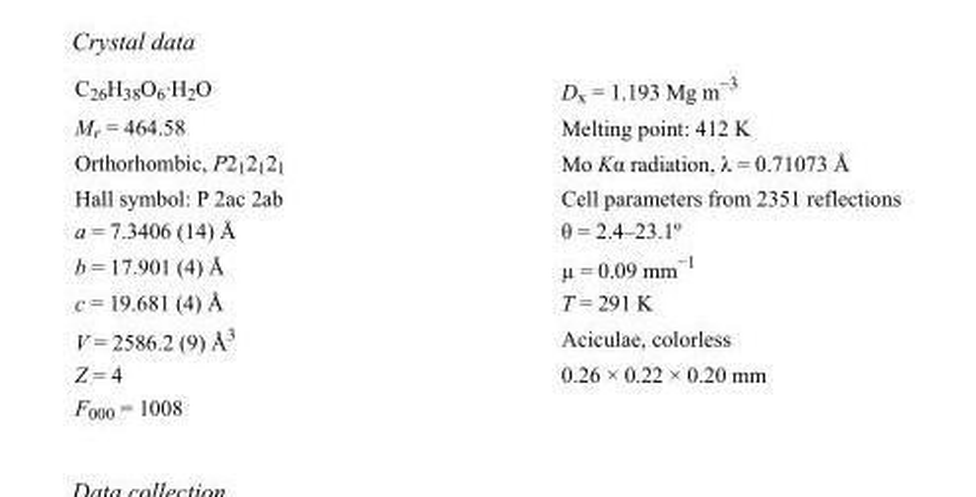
<table><tbody><tr><td>C<sub>26</sub>H<sub>38</sub>O<sub>6</sub>·H<sub>2</sub>O</td><td>D<sub>x</sub> = 1.193 Mg m<sup>−3</sup></td></tr><tr><td>M<sub>r</sub> = 464.58</td><td>Melting point: 412 K</td></tr><tr><td>Orthorhombic, P2<sub>1</sub>2<sub>1</sub>2<sub>1</sub></td><td>Mo Kα radiation, λ = 0.71073 Å</td></tr><tr><td>Hall symbol: P 2ac 2ab</td><td>Cell parameters from 2351 reflections</td></tr><tr><td>a = 7.3406 (14) Å</td><td>θ = 2.4–23.1º</td></tr><tr><td>b = 17.901 (4) Å</td><td>µ = 0.09 mm<sup>−1</sup></td></tr><tr><td>c = 19.681 (4) Å</td><td>T = 291 K</td></tr><tr><td>V = 2586.2 (9) Å<sup>3</sup></td><td>Aciculae, colorless</td></tr><tr><td>Z = 4</td><td>0.26 × 0.22 × 0.20 mm</td></tr><tr><td>F000 = 1008</td><td></td></tr></tbody></table>